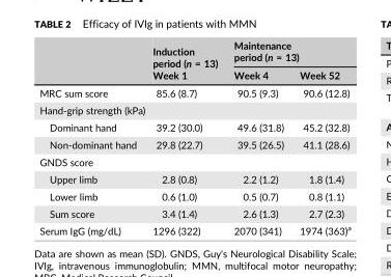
<table><thead><tr><td rowspan="2"></td><td rowspan="2">Induction period (n = 13) Week 1</td><td colspan="2">Maintenance period (n = 13)</td></tr><tr><td>Week 4</td><td>Week 52</td></tr></thead><tbody><tr><td>MRC sum score</td><td>85.6 (8.7)</td><td>90.5 (9.3)</td><td>90.6 (12.8)</td></tr><tr><td colspan="4">Hand-grip strength (kPa)</td></tr><tr><td>Dominant hand</td><td>39.2 (30.0)</td><td>49.6 (31.8)</td><td>45.2 (32.8)</td></tr><tr><td>Non-dominant hand</td><td>29.8 (22.7)</td><td>39.5 (26.5)</td><td>41.1 (28.6)</td></tr><tr><td colspan="4">GNDS score</td></tr><tr><td>Upper limb</td><td>2.8 (0.8)</td><td>2.2 (1.2)</td><td>1.8 (1.4)</td></tr><tr><td>Lower limb</td><td>0.6 (1.0)</td><td>0.5 (0.7)</td><td>0.8 (1.1)</td></tr><tr><td>Sum score</td><td>3.4 (1.4)</td><td>2.6 (1.3)</td><td>2.7 (2.3)</td></tr><tr><td>Serum IgG (mg/dL)</td><td>1296 (322)</td><td>2070 (341)</td><td>1974 (363)<sup>a</sup></td></tr></tbody></table>